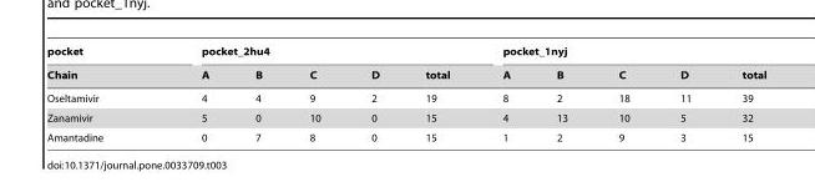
<table><thead><tr><td rowspan="2">pocket Chain</td><td colspan="5">pocket_2hu4</td><td colspan="5">pocket_1nyj</td></tr><tr><td>A</td><td>B</td><td>C</td><td>D</td><td>total</td><td>A</td><td>B</td><td>C</td><td>D</td><td>total</td></tr></thead><tbody><tr><td>Oseltamivir</td><td>4</td><td>4</td><td>9</td><td>2</td><td>19</td><td>8</td><td>2</td><td>18</td><td>11</td><td>39</td></tr><tr><td>Zanamivir</td><td>5</td><td>0</td><td>10</td><td>0</td><td>15</td><td>4</td><td>13</td><td>10</td><td>5</td><td>32</td></tr><tr><td>Amantadine</td><td>0</td><td>7</td><td>8</td><td>0</td><td>15</td><td>1</td><td>2</td><td>9</td><td>3</td><td>15</td></tr></tbody></table>